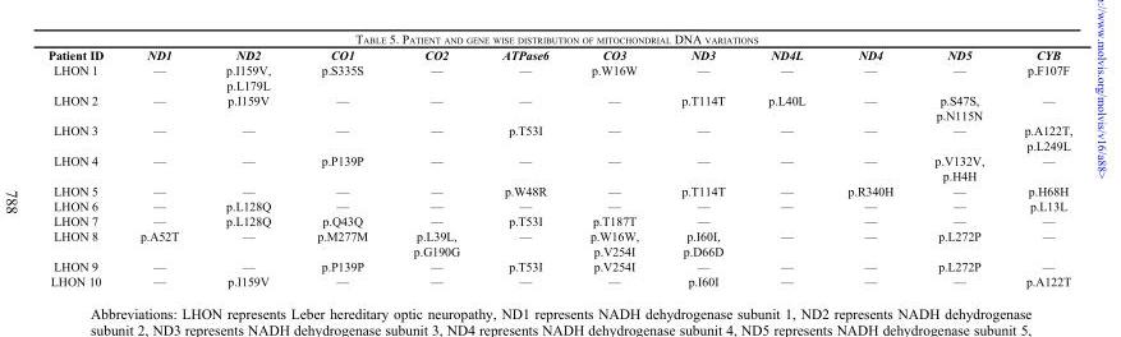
<table><thead><tr><td>Patient ID</td><td>ND1</td><td>ND2</td><td>CO1</td><td>CO2</td><td>ATPase6</td><td>CO3</td><td>ND3</td><td>ND4L</td><td>ND4</td><td>ND5</td><td>CYB</td></tr></thead><tbody><tr><td>LHON 1</td><td>—</td><td>p.I159V, p.L179L</td><td>p.S335S</td><td>—</td><td>—</td><td>p.W16W</td><td>—</td><td>—</td><td>—</td><td>—</td><td>p.F107F</td></tr><tr><td>LHON 2</td><td>—</td><td>p.I159V</td><td>—</td><td>—</td><td>—</td><td>—</td><td>p.T114T</td><td>p.L40L</td><td>—</td><td>p.S47S, p.N115N</td><td>—</td></tr><tr><td>LHON 3</td><td>—</td><td>—</td><td>—</td><td>—</td><td>p.T53I</td><td>—</td><td>—</td><td>—</td><td>—</td><td>—</td><td>p.A122T, p.L249L</td></tr><tr><td>LHON 4</td><td>—</td><td>—</td><td>p.P139P</td><td>—</td><td>—</td><td>—</td><td>—</td><td>—</td><td>—</td><td>p.V132V, p.H4H</td><td>—</td></tr><tr><td>LHON 5</td><td>—</td><td>—</td><td>—</td><td>—</td><td>p.W48R</td><td>—</td><td>p.T114T</td><td>—</td><td>p.R340H</td><td>—</td><td>p.H68H</td></tr><tr><td>LHON 6</td><td>—</td><td>p.L128Q</td><td>—</td><td>—</td><td>—</td><td>—</td><td>—</td><td>—</td><td>—</td><td>—</td><td>p.L13L</td></tr><tr><td>LHON 7</td><td>—</td><td>p.L128Q</td><td>p.Q43Q</td><td>—</td><td>p.T53I</td><td>p.T187T</td><td>—</td><td></td><td>—</td><td>—</td><td>—</td></tr><tr><td>LHON 8</td><td>p.A52T</td><td>—</td><td>p.M277M</td><td>p.L39L, p.G190G</td><td>—</td><td>p.W16W, p.V254I</td><td>p.I60I, p.D66D</td><td>—</td><td>—</td><td>p.L272P</td><td>—</td></tr><tr><td>LHON 9</td><td>—</td><td>—</td><td>p.P139P</td><td>—</td><td>p.T53I</td><td>p.V254I</td><td>—</td><td>—</td><td>—</td><td>p.L272P</td><td>—</td></tr><tr><td>LHON 10</td><td>—</td><td>p.I159V</td><td>—</td><td>—</td><td>—</td><td>—</td><td>p.I60I</td><td>—</td><td>—</td><td>—</td><td>p.A122T</td></tr></tbody></table>